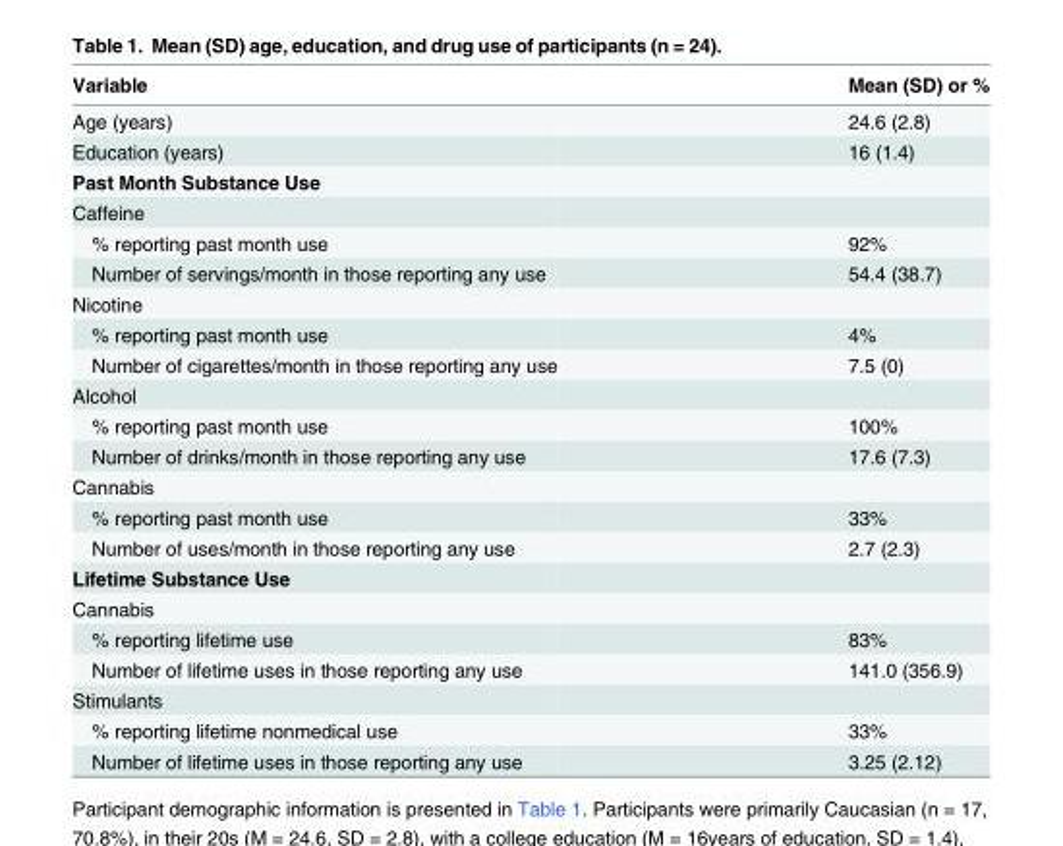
<table><thead><tr><td>Variable</td><td>Mean (SD) or %</td></tr></thead><tbody><tr><td>Age (years)</td><td>24.6 (2.8)</td></tr><tr><td>Education (years)</td><td>16 (1.4)</td></tr><tr><td colspan="2">Past Month Substance Use</td></tr><tr><td colspan="2">Caffeine</td></tr><tr><td>% reporting past month use</td><td>92%</td></tr><tr><td>Number of servings/month in those reporting any use</td><td>54.4 (38.7)</td></tr><tr><td colspan="2">Nicotine</td></tr><tr><td>% reporting past month use</td><td>4%</td></tr><tr><td>Number of cigarettes/month in those reporting any use</td><td>7.5 (0)</td></tr><tr><td colspan="2">Alcohol</td></tr><tr><td>% reporting past month use</td><td>100%</td></tr><tr><td>Number of drinks/month in those reporting any use</td><td>17.6 (7.3)</td></tr><tr><td colspan="2">Cannabis</td></tr><tr><td>% reporting past month use</td><td>33%</td></tr><tr><td>Number of uses/month in those reporting any use</td><td>2.7 (2.3)</td></tr><tr><td colspan="2">Lifetime Substance Use</td></tr><tr><td colspan="2">Cannabis</td></tr><tr><td>% reporting lifetime use</td><td>83%</td></tr><tr><td>Number of lifetime uses in those reporting any use</td><td>141.0 (356.9)</td></tr><tr><td colspan="2">Stimulants</td></tr><tr><td>% reporting lifetime nonmedical use</td><td>33%</td></tr><tr><td>Number of lifetime uses in those reporting any use</td><td>3.25 (2.12)</td></tr></tbody></table>